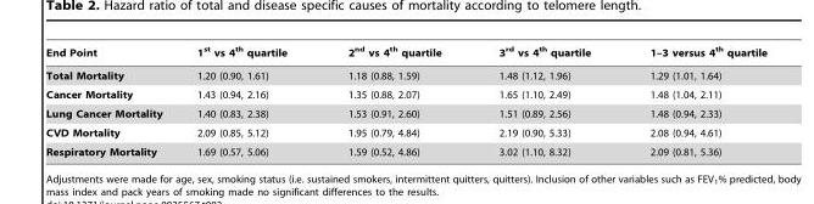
<table><thead><tr><td>End Point</td><td>1<sup>st</sup> vs 4<sup>th</sup> quartile</td><td>2<sup>nd</sup> vs 4<sup>th</sup> quartile</td><td>3<sup>rd</sup> vs 4<sup>th</sup> quartile</td><td>1–3 versus 4<sup>th</sup> quartile</td></tr></thead><tbody><tr><td>Total Mortality</td><td>1.20 (0.90, 1.61)</td><td>1.18 (0.88, 1.59)</td><td>1.48 (1.12, 1.96)</td><td>1.29 (1.01, 1.64)</td></tr><tr><td>Cancer Mortality</td><td>1.43 (0.94, 2.16)</td><td>1.35 (0.88, 2.07)</td><td>1.65 (1.10, 2.49)</td><td>1.48 (1.04, 2.11)</td></tr><tr><td>Lung Cancer Mortality</td><td>1.40 (0.83, 2.38)</td><td>1.53 (0.91, 2.60)</td><td>1.51 (0.89, 2.56)</td><td>1.48 (0.94, 2.33)</td></tr><tr><td>CVD Mortality</td><td>2.09 (0.85, 5.12)</td><td>1.95 (0.79, 4.84)</td><td>2.19 (0.90, 5.33)</td><td>2.08 (0.94, 4.61)</td></tr><tr><td>Respiratory Mortality</td><td>1.69 (0.57, 5.06)</td><td>1.59 (0.52, 4.86)</td><td>3.02 (1.10, 8.32)</td><td>2.09 (0.81, 5.36)</td></tr></tbody></table>